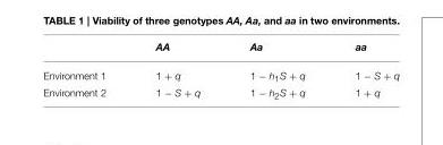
<table><thead><tr><td></td><td>AA</td><td>Aa</td><td>aa</td></tr></thead><tbody><tr><td>Environment 1</td><td>1 + q</td><td>1 − h<sub>1</sub>S + q</td><td>1 − S + q</td></tr><tr><td>Environment 2</td><td>1 − S + q</td><td>1 − h<sub>2</sub>S + q</td><td>1 + q</td></tr></tbody></table>